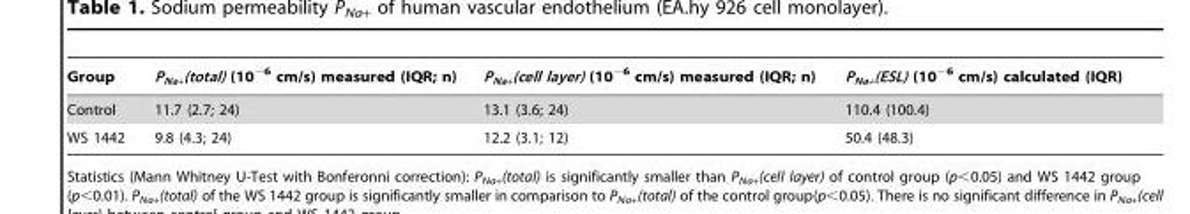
<table><thead><tr><td>Group</td><td>P<sub>Na+</sub>(total) (10<sup>−6</sup> cm/s) measured (IQR; n)</td><td>P<sub>Na+</sub>(cell layer) (10<sup>−6</sup> cm/s) measured (IQR; n)</td><td>P<sub>Na+</sub>(ESL) (10<sup>−6</sup> cm/s) calculated (IQR)</td></tr></thead><tbody><tr><td>Control</td><td>11.7 (2.7; 24)</td><td>13.1 (3.6; 24)</td><td>110.4 (100.4)</td></tr><tr><td>WS 1442</td><td>9.8 (4.3; 24)</td><td>12.2 (3.1; 12)</td><td>50.4 (48.3)</td></tr></tbody></table>